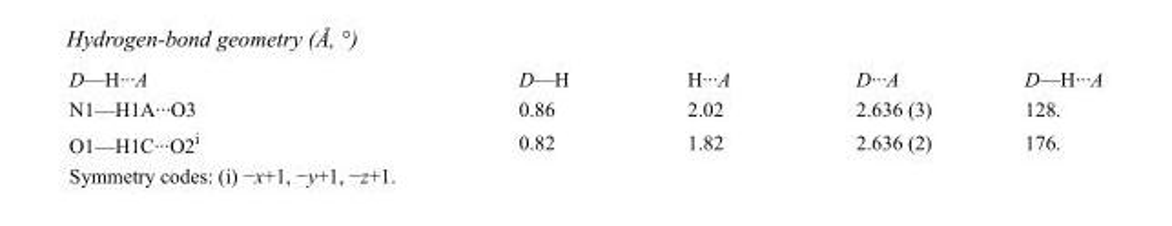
<table><tbody><tr><td>D—H···A</td><td>D—H</td><td>H···A</td><td>D···A</td><td>D—H···A</td></tr><tr><td>N1—H1A···O3</td><td>0.86</td><td>2.02</td><td>2.636 (3)</td><td>128.</td></tr><tr><td>O1—H1C···O2<sup>i</sup></td><td>0.82</td><td>1.82</td><td>2.636 (2)</td><td>176.</td></tr></tbody></table>